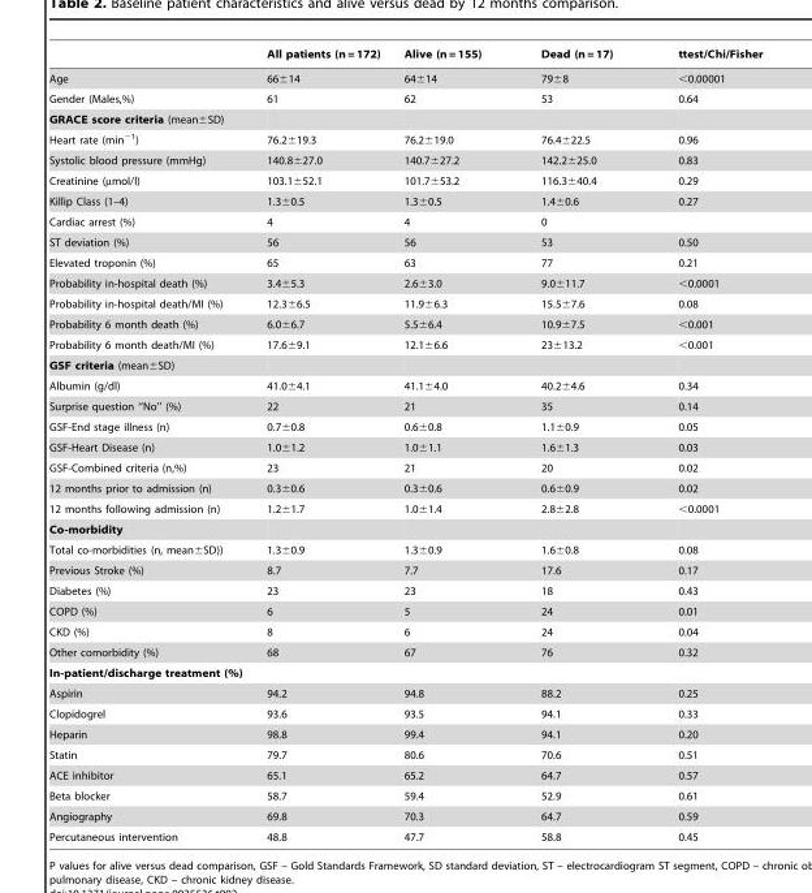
<table><thead><tr><td></td><td>All patients (n = 172)</td><td>Alive (n = 155)</td><td>Dead (n = 17)</td><td>ttest/Chi/Fisher</td></tr></thead><tbody><tr><td>Age</td><td>66±14</td><td>64±14</td><td>79±8</td><td>&lt;0.00001</td></tr><tr><td>Gender (Males,%)</td><td>61</td><td>62</td><td>53</td><td>0.64</td></tr><tr><td colspan="5">GRACE score criteria (mean±SD)</td></tr><tr><td>Heart rate (min<sup>−1</sup>)</td><td>76.2±19.3</td><td>76.2±19.0</td><td>76.4±22.5</td><td>0.96</td></tr><tr><td>Systolic blood pressure (mmHg)</td><td>140.8±27.0</td><td>140.7±27.2</td><td>142.2±25.0</td><td>0.83</td></tr><tr><td>Creatinine (µmol/l)</td><td>103.1±52.1</td><td>101.7±53.2</td><td>116.3±40.4</td><td>0.29</td></tr><tr><td>Killip Class (1–4)</td><td>1.3±0.5</td><td>1.3±0.5</td><td>1.4±0.6</td><td>0.27</td></tr><tr><td>Cardiac arrest (%)</td><td>4</td><td>4</td><td>0</td><td></td></tr><tr><td>ST deviation (%)</td><td>56</td><td>56</td><td>53</td><td>0.50</td></tr><tr><td>Elevated troponin (%)</td><td>65</td><td>63</td><td>77</td><td>0.21</td></tr><tr><td>Probability in-hospital death (%)</td><td>3.4±5.3</td><td>2.6±3.0</td><td>9.0±11.7</td><td>&lt;0.0001</td></tr><tr><td>Probability in-hospital death/MI (%)</td><td>12.3±6.5</td><td>11.9±6.3</td><td>15.5±7.6</td><td>0.08</td></tr><tr><td>Probability 6 month death (%)</td><td>6.0±6.7</td><td>5.5±6.4</td><td>10.9±7.5</td><td>&lt;0.001</td></tr><tr><td>Probability 6 month death/MI (%)</td><td>17.6±9.1</td><td>12.1±6.6</td><td>23±13.2</td><td>&lt;0.001</td></tr><tr><td colspan="5">GSF criteria (mean±SD)</td></tr><tr><td>Albumin (g/dl)</td><td>41.0±4.1</td><td>41.1±4.0</td><td>40.2±4.6</td><td>0.34</td></tr><tr><td>Surprise question ‘‘No’’ (%)</td><td>22</td><td>21</td><td>35</td><td>0.14</td></tr><tr><td>GSF-End stage illness (n)</td><td>0.7±0.8</td><td>0.6±0.8</td><td>1.1±0.9</td><td>0.05</td></tr><tr><td>GSF-Heart Disease (n)</td><td>1.0±1.2</td><td>1.0±1.1</td><td>1.6±1.3</td><td>0.03</td></tr><tr><td>GSF-Combined criteria (n,%)</td><td>23</td><td>21</td><td>20</td><td>0.02</td></tr><tr><td>12 months prior to admission (n)</td><td>0.3±0.6</td><td>0.3±0.6</td><td>0.6±0.9</td><td>0.02</td></tr><tr><td>12 months following admission (n)</td><td>1.2±1.7</td><td>1.0±1.4</td><td>2.8±2.8</td><td>&lt;0.0001</td></tr><tr><td colspan="5">Co-morbidity</td></tr><tr><td>Total co-morbidities (n, mean±SD))</td><td>1.3±0.9</td><td>1.3±0.9</td><td>1.6±0.8</td><td>0.08</td></tr><tr><td>Previous Stroke (%)</td><td>8.7</td><td>7.7</td><td>17.6</td><td>0.17</td></tr><tr><td>Diabetes (%)</td><td>23</td><td>23</td><td>18</td><td>0.43</td></tr><tr><td>COPD (%)</td><td>6</td><td>5</td><td>24</td><td>0.01</td></tr><tr><td>CKD (%)</td><td>8</td><td>6</td><td>24</td><td>0.04</td></tr><tr><td>Other comorbidity (%)</td><td>68</td><td>67</td><td>76</td><td>0.32</td></tr><tr><td colspan="5">In-patient/discharge treatment (%)</td></tr><tr><td>Aspirin</td><td>94.2</td><td>94.8</td><td>88.2</td><td>0.25</td></tr><tr><td>Clopidogrel</td><td>93.6</td><td>93.5</td><td>94.1</td><td>0.33</td></tr><tr><td>Heparin</td><td>98.8</td><td>99.4</td><td>94.1</td><td>0.20</td></tr><tr><td>Statin</td><td>79.7</td><td>80.6</td><td>70.6</td><td>0.51</td></tr><tr><td>ACE inhibitor</td><td>65.1</td><td>65.2</td><td>64.7</td><td>0.57</td></tr><tr><td>Beta blocker</td><td>58.7</td><td>59.4</td><td>52.9</td><td>0.61</td></tr><tr><td>Angiography</td><td>69.8</td><td>70.3</td><td>64.7</td><td>0.59</td></tr><tr><td>Percutaneous intervention</td><td>48.8</td><td>47.7</td><td>58.8</td><td>0.45</td></tr></tbody></table>